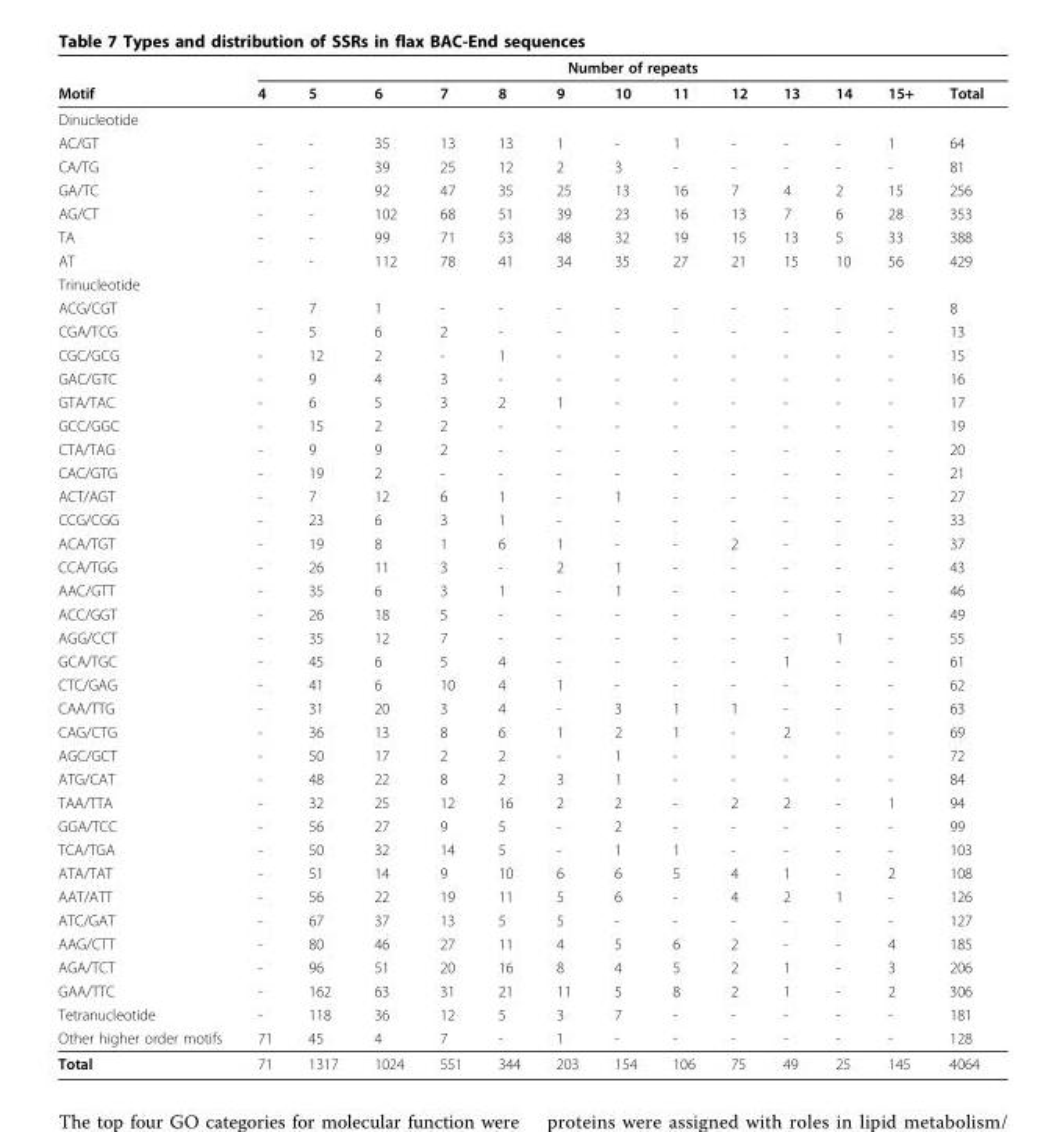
<table><thead><tr><td rowspan="2">Motif</td><td colspan="13">Number of repeats</td></tr><tr><td>4</td><td>5</td><td>6</td><td>7</td><td>8</td><td>9</td><td>10</td><td>11</td><td>12</td><td>13</td><td>14</td><td>15+</td><td>Total</td></tr></thead><tbody><tr><td colspan="14">Dinucleotide</td></tr><tr><td>AC/GT</td><td>-</td><td>-</td><td>35</td><td>13</td><td>13</td><td>1</td><td>-</td><td>1</td><td>-</td><td>-</td><td>-</td><td>1</td><td>64</td></tr><tr><td>CA/TG</td><td>-</td><td>-</td><td>39</td><td>25</td><td>12</td><td>2</td><td>3</td><td>-</td><td>-</td><td>-</td><td>-</td><td>-</td><td>81</td></tr><tr><td>GA/TC</td><td>-</td><td>-</td><td>92</td><td>47</td><td>35</td><td>25</td><td>13</td><td>16</td><td>7</td><td>4</td><td>2</td><td>15</td><td>256</td></tr><tr><td>AG/CT</td><td>-</td><td>-</td><td>102</td><td>68</td><td>51</td><td>39</td><td>23</td><td>16</td><td>13</td><td>7</td><td>6</td><td>28</td><td>353</td></tr><tr><td>TA</td><td>-</td><td>-</td><td>99</td><td>71</td><td>53</td><td>48</td><td>32</td><td>19</td><td>15</td><td>13</td><td>5</td><td>33</td><td>388</td></tr><tr><td>AT</td><td>-</td><td>-</td><td>112</td><td>78</td><td>41</td><td>34</td><td>35</td><td>27</td><td>21</td><td>15</td><td>10</td><td>56</td><td>429</td></tr><tr><td colspan="14">Trinucleotide</td></tr><tr><td>ACG/CGT</td><td>-</td><td>7</td><td>1</td><td>-</td><td>-</td><td>-</td><td>-</td><td>-</td><td>-</td><td>-</td><td>-</td><td>-</td><td>8</td></tr><tr><td>CGA/TCG</td><td>-</td><td>5</td><td>6</td><td>2</td><td>-</td><td>-</td><td>-</td><td>-</td><td>-</td><td>-</td><td>-</td><td>-</td><td>13</td></tr><tr><td>CGC/GCG</td><td>-</td><td>12</td><td>2</td><td>-</td><td>1</td><td>-</td><td>-</td><td>-</td><td>-</td><td>-</td><td>-</td><td>-</td><td>15</td></tr><tr><td>GAC/GTC</td><td>-</td><td>9</td><td>4</td><td>3</td><td>-</td><td>-</td><td>-</td><td>-</td><td>-</td><td>-</td><td>-</td><td>-</td><td>16</td></tr><tr><td>GTA/TAC</td><td>-</td><td>6</td><td>5</td><td>3</td><td>2</td><td>1</td><td>-</td><td>-</td><td>-</td><td>-</td><td>-</td><td>-</td><td>17</td></tr><tr><td>GCC/GGC</td><td>-</td><td>15</td><td>2</td><td>2</td><td>-</td><td>-</td><td>-</td><td>-</td><td>-</td><td>-</td><td>-</td><td>-</td><td>19</td></tr><tr><td>CTA/TAG</td><td>-</td><td>9</td><td>9</td><td>2</td><td>-</td><td>-</td><td>-</td><td>-</td><td>-</td><td>-</td><td>-</td><td>-</td><td>20</td></tr><tr><td>CAC/GTG</td><td>-</td><td>19</td><td>2</td><td>-</td><td>-</td><td>-</td><td>-</td><td>-</td><td>-</td><td>-</td><td>-</td><td>-</td><td>21</td></tr><tr><td>ACT/AGT</td><td>-</td><td>7</td><td>12</td><td>6</td><td>1</td><td>-</td><td>1</td><td>-</td><td>-</td><td>-</td><td>-</td><td>-</td><td>27</td></tr><tr><td>CCG/CGG</td><td>-</td><td>23</td><td>6</td><td>3</td><td>1</td><td>-</td><td>-</td><td>-</td><td>-</td><td>-</td><td>-</td><td>-</td><td>33</td></tr><tr><td>ACA/TGT</td><td>-</td><td>19</td><td>8</td><td>1</td><td>6</td><td>1</td><td>-</td><td>-</td><td>2</td><td>-</td><td>-</td><td>-</td><td>37</td></tr><tr><td>CCA/TGG</td><td>-</td><td>26</td><td>11</td><td>3</td><td>-</td><td>2</td><td>1</td><td>-</td><td>-</td><td>-</td><td>-</td><td>-</td><td>43</td></tr><tr><td>AAC/GTT</td><td>-</td><td>35</td><td>6</td><td>3</td><td>1</td><td>-</td><td>1</td><td>-</td><td>-</td><td>-</td><td>-</td><td>-</td><td>46</td></tr><tr><td>ACC/GGT</td><td>-</td><td>26</td><td>18</td><td>5</td><td>-</td><td>-</td><td>-</td><td>-</td><td>-</td><td>-</td><td>-</td><td>-</td><td>49</td></tr><tr><td>AGG/CCT</td><td>-</td><td>35</td><td>12</td><td>7</td><td>-</td><td>-</td><td>-</td><td>-</td><td>-</td><td>-</td><td>1</td><td>-</td><td>55</td></tr><tr><td>GCA/TGC</td><td>-</td><td>45</td><td>6</td><td>5</td><td>4</td><td>-</td><td>-</td><td>-</td><td>-</td><td>1</td><td>-</td><td>-</td><td>61</td></tr><tr><td>CTC/GAG</td><td>-</td><td>41</td><td>6</td><td>10</td><td>4</td><td>1</td><td>-</td><td>-</td><td>-</td><td>-</td><td>-</td><td>-</td><td>62</td></tr><tr><td>CAA/TTG</td><td>-</td><td>31</td><td>20</td><td>3</td><td>4</td><td>-</td><td>3</td><td>1</td><td>1</td><td>-</td><td>-</td><td>-</td><td>63</td></tr><tr><td>CAG/CTG</td><td>-</td><td>36</td><td>13</td><td>8</td><td>6</td><td>1</td><td>2</td><td>1</td><td>-</td><td>2</td><td>-</td><td>-</td><td>69</td></tr><tr><td>AGC/GCT</td><td>-</td><td>50</td><td>17</td><td>2</td><td>2</td><td>-</td><td>1</td><td>-</td><td>-</td><td>-</td><td>-</td><td>-</td><td>72</td></tr><tr><td>ATG/CAT</td><td>-</td><td>48</td><td>22</td><td>8</td><td>2</td><td>3</td><td>1</td><td>-</td><td>-</td><td>-</td><td>-</td><td>-</td><td>84</td></tr><tr><td>TAA/TTA</td><td>-</td><td>32</td><td>25</td><td>12</td><td>16</td><td>2</td><td>2</td><td>-</td><td>2</td><td>2</td><td>-</td><td>1</td><td>94</td></tr><tr><td>GGA/TCC</td><td>-</td><td>56</td><td>27</td><td>9</td><td>5</td><td>-</td><td>2</td><td>-</td><td>-</td><td>-</td><td>-</td><td>-</td><td>99</td></tr><tr><td>TCA/TGA</td><td>-</td><td>50</td><td>32</td><td>14</td><td>5</td><td>-</td><td>1</td><td>1</td><td>-</td><td>-</td><td>-</td><td>-</td><td>103</td></tr><tr><td>ATA/TAT</td><td>-</td><td>51</td><td>14</td><td>9</td><td>10</td><td>6</td><td>6</td><td>5</td><td>4</td><td>1</td><td>-</td><td>2</td><td>108</td></tr><tr><td>AAT/ATT</td><td>-</td><td>56</td><td>22</td><td>19</td><td>11</td><td>5</td><td>6</td><td>-</td><td>4</td><td>2</td><td>1</td><td>-</td><td>126</td></tr><tr><td>ATC/GAT</td><td>-</td><td>67</td><td>37</td><td>13</td><td>5</td><td>5</td><td>-</td><td>-</td><td>-</td><td>-</td><td>-</td><td>-</td><td>127</td></tr><tr><td>AAG/CTT</td><td>-</td><td>80</td><td>46</td><td>27</td><td>11</td><td>4</td><td>5</td><td>6</td><td>2</td><td>-</td><td>-</td><td>4</td><td>185</td></tr><tr><td>AGA/TCT</td><td>-</td><td>96</td><td>51</td><td>20</td><td>16</td><td>8</td><td>4</td><td>5</td><td>2</td><td>1</td><td>-</td><td>3</td><td>206</td></tr><tr><td>GAA/TTC</td><td>-</td><td>162</td><td>63</td><td>31</td><td>21</td><td>11</td><td>5</td><td>8</td><td>2</td><td>1</td><td>-</td><td>2</td><td>306</td></tr><tr><td>Tetranucleotide</td><td>-</td><td>118</td><td>36</td><td>12</td><td>5</td><td>3</td><td>7</td><td>-</td><td>-</td><td>-</td><td>-</td><td>-</td><td>181</td></tr><tr><td>Other higher order motifs</td><td>71</td><td>45</td><td>4</td><td>7</td><td>-</td><td>1</td><td>-</td><td>-</td><td>-</td><td>-</td><td>-</td><td>-</td><td>128</td></tr><tr><td>Total</td><td>71</td><td>1317</td><td>1024</td><td>551</td><td>344</td><td>203</td><td>154</td><td>106</td><td>75</td><td>49</td><td>25</td><td>145</td><td>4064</td></tr></tbody></table>